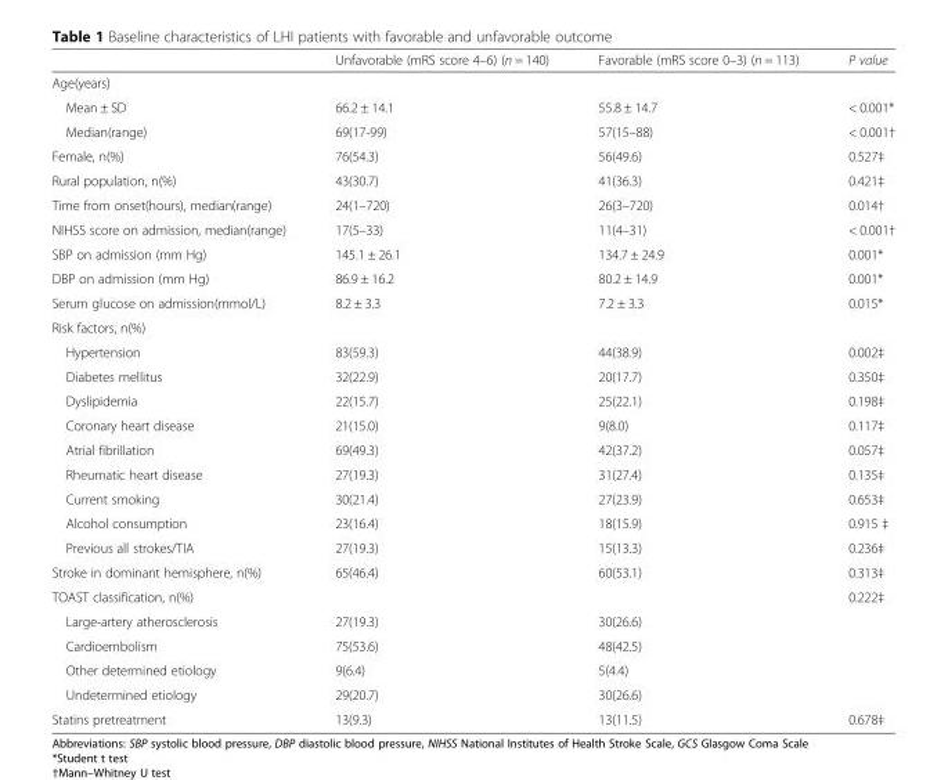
<table><thead><tr><td></td><td>Unfavorable (mRS score 4–6) (n = 140)</td><td>Favorable (mRS score 0–3) (n = 113)</td><td>P value</td></tr></thead><tbody><tr><td colspan="4">Age(years)</td></tr><tr><td>Mean ± SD</td><td>66.2 ± 14.1</td><td>55.8 ± 14.7</td><td>&lt; 0.001*</td></tr><tr><td>Median(range)</td><td>69(17-99)</td><td>57(15–88)</td><td>&lt; 0.001†</td></tr><tr><td>Female, n(%)</td><td>76(54.3)</td><td>56(49.6)</td><td>0.527‡</td></tr><tr><td>Rural population, n(%)</td><td>43(30.7)</td><td>41(36.3)</td><td>0.421‡</td></tr><tr><td>Time from onset(hours), median(range)</td><td>24(1–720)</td><td>26(3–720)</td><td>0.014†</td></tr><tr><td>NIHSS score on admission, median(range)</td><td>17(5–33)</td><td>11(4–31)</td><td>&lt; 0.001†</td></tr><tr><td>SBP on admission (mm Hg)</td><td>145.1 ± 26.1</td><td>134.7 ± 24.9</td><td>0.001*</td></tr><tr><td>DBP on admission (mm Hg)</td><td>86.9 ± 16.2</td><td>80.2 ± 14.9</td><td>0.001*</td></tr><tr><td>Serum glucose on admission(mmol/L)</td><td>8.2 ± 3.3</td><td>7.2 ± 3.3</td><td>0.015*</td></tr><tr><td colspan="4">Risk factors, n(%)</td></tr><tr><td>Hypertension</td><td>83(59.3)</td><td>44(38.9)</td><td>0.002‡</td></tr><tr><td>Diabetes mellitus</td><td>32(22.9)</td><td>20(17.7)</td><td>0.350‡</td></tr><tr><td>Dyslipidemia</td><td>22(15.7)</td><td>25(22.1)</td><td>0.198‡</td></tr><tr><td>Coronary heart disease</td><td>21(15.0)</td><td>9(8.0)</td><td>0.117‡</td></tr><tr><td>Atrial fibrillation</td><td>69(49.3)</td><td>42(37.2)</td><td>0.057‡</td></tr><tr><td>Rheumatic heart disease</td><td>27(19.3)</td><td>31(27.4)</td><td>0.135‡</td></tr><tr><td>Current smoking</td><td>30(21.4)</td><td>27(23.9)</td><td>0.653‡</td></tr><tr><td>Alcohol consumption</td><td>23(16.4)</td><td>18(15.9)</td><td>0.915 ‡</td></tr><tr><td>Previous all strokes/TIA</td><td>27(19.3)</td><td>15(13.3)</td><td>0.236‡</td></tr><tr><td>Stroke in dominant hemisphere, n(%)</td><td>65(46.4)</td><td>60(53.1)</td><td>0.313‡</td></tr><tr><td>TOAST classification, n(%)</td><td></td><td></td><td>0.222‡</td></tr><tr><td>Large-artery atherosclerosis</td><td>27(19.3)</td><td>30(26.6)</td><td></td></tr><tr><td>Cardioembolism</td><td>75(53.6)</td><td>48(42.5)</td><td></td></tr><tr><td>Other determined etiology</td><td>9(6.4)</td><td>5(4.4)</td><td></td></tr><tr><td>Undetermined etiology</td><td>29(20.7)</td><td>30(26.6)</td><td></td></tr><tr><td>Statins pretreatment</td><td>13(9.3)</td><td>13(11.5)</td><td>0.678‡</td></tr></tbody></table>